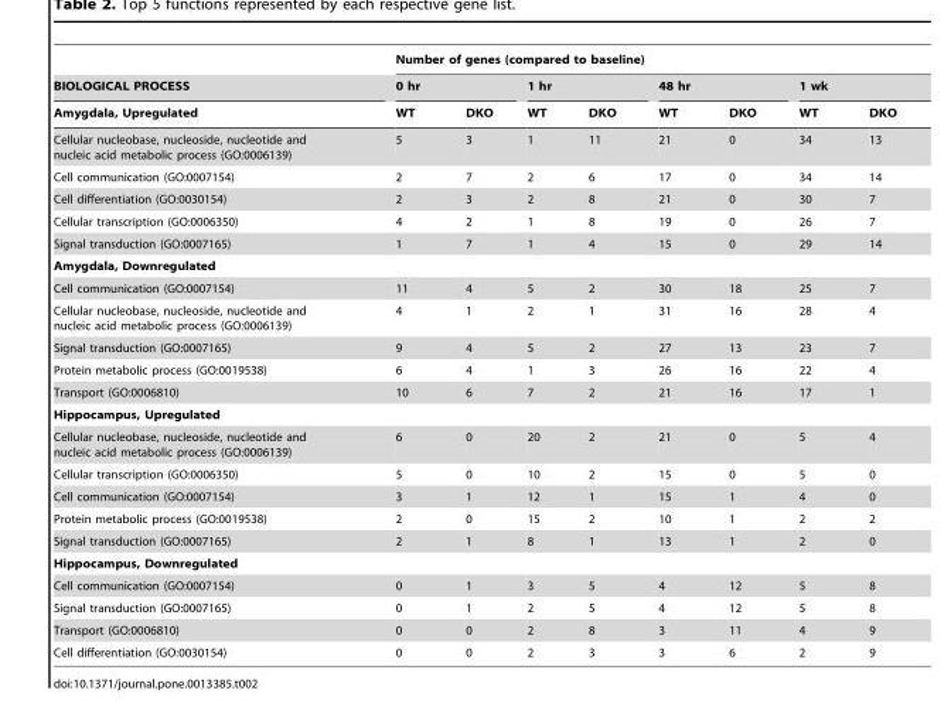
<table><thead><tr><td rowspan="3">BIOLOGICAL PROCESS Amygdala, Upregulated</td><td colspan="8">Number of genes (compared to baseline)</td></tr><tr><td colspan="2">0 hr</td><td colspan="2">1 hr</td><td colspan="2">48 hr</td><td colspan="2">1 wk</td></tr><tr><td>WT</td><td>DKO</td><td>WT</td><td>DKO</td><td>WT</td><td>DKO</td><td>WT</td><td>DKO</td></tr></thead><tbody><tr><td>Cellular nucleobase, nucleoside, nucleotide and nucleic acid metabolic process (GO:0006139)</td><td>5</td><td>3</td><td>1</td><td>11</td><td>21</td><td>0</td><td>34</td><td>13</td></tr><tr><td>Cell communication (GO:0007154)</td><td>2</td><td>7</td><td>2</td><td>6</td><td>17</td><td>0</td><td>34</td><td>14</td></tr><tr><td>Cell differentiation (GO:0030154)</td><td>2</td><td>3</td><td>2</td><td>8</td><td>21</td><td>0</td><td>30</td><td>7</td></tr><tr><td>Cellular transcription (GO:0006350)</td><td>4</td><td>2</td><td>1</td><td>8</td><td>19</td><td>0</td><td>26</td><td>7</td></tr><tr><td>Signal transduction (GO:0007165)</td><td>1</td><td>7</td><td>1</td><td>4</td><td>15</td><td>0</td><td>29</td><td>14</td></tr><tr><td colspan="9">Amygdala, Downregulated</td></tr><tr><td>Cell communication (GO:0007154)</td><td>11</td><td>4</td><td>5</td><td>2</td><td>30</td><td>18</td><td>25</td><td>7</td></tr><tr><td>Cellular nucleobase, nucleoside, nucleotide and nucleic acid metabolic process (GO:0006139)</td><td>4</td><td>1</td><td>2</td><td>1</td><td>31</td><td>16</td><td>28</td><td>4</td></tr><tr><td>Signal transduction (GO:0007165)</td><td>9</td><td>4</td><td>5</td><td>2</td><td>27</td><td>13</td><td>23</td><td>7</td></tr><tr><td>Protein metabolic process (GO:0019538)</td><td>6</td><td>4</td><td>1</td><td>3</td><td>26</td><td>16</td><td>22</td><td>4</td></tr><tr><td>Transport (GO:0006810)</td><td>10</td><td>6</td><td>7</td><td>2</td><td>21</td><td>16</td><td>17</td><td>1</td></tr><tr><td colspan="9">Hippocampus, Upregulated</td></tr><tr><td>Cellular nucleobase, nucleoside, nucleotide and nucleic acid metabolic process (GO:0006139)</td><td>6</td><td>0</td><td>20</td><td>2</td><td>21</td><td>0</td><td>5</td><td>4</td></tr><tr><td>Cellular transcription (GO:0006350)</td><td>5</td><td>0</td><td>10</td><td>2</td><td>15</td><td>0</td><td>5</td><td>0</td></tr><tr><td>Cell communication (GO:0007154)</td><td>3</td><td>1</td><td>12</td><td>1</td><td>15</td><td>1</td><td>4</td><td>0</td></tr><tr><td>Protein metabolic process (GO:0019538)</td><td>2</td><td>0</td><td>15</td><td>2</td><td>10</td><td>1</td><td>2</td><td>2</td></tr><tr><td>Signal transduction (GO:0007165)</td><td>2</td><td>1</td><td>8</td><td>1</td><td>13</td><td>1</td><td>2</td><td>0</td></tr><tr><td colspan="9">Hippocampus, Downregulated</td></tr><tr><td>Cell communication (GO:0007154)</td><td>0</td><td>1</td><td>3</td><td>5</td><td>4</td><td>12</td><td>5</td><td>8</td></tr><tr><td>Signal transduction (GO:0007165)</td><td>0</td><td>1</td><td>2</td><td>5</td><td>4</td><td>12</td><td>5</td><td>8</td></tr><tr><td>Transport (GO:0006810)</td><td>0</td><td>0</td><td>2</td><td>8</td><td>3</td><td>11</td><td>4</td><td>9</td></tr><tr><td>Cell differentiation (GO:0030154)</td><td>0</td><td>0</td><td>2</td><td>3</td><td>3</td><td>6</td><td>2</td><td>9</td></tr></tbody></table>